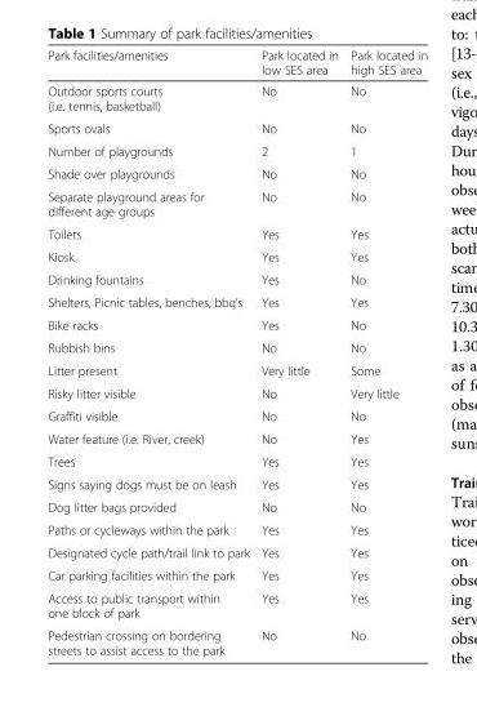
<table><thead><tr><td>Park facilities/amenities</td><td>Park located in low SES area</td><td>Park located in high SES area</td></tr></thead><tbody><tr><td>Outdoor sports courts (i.e. tennis, basketball)</td><td>No</td><td>No</td></tr><tr><td>Sports ovals</td><td>No</td><td>No</td></tr><tr><td>Number of playgrounds</td><td>2</td><td>1</td></tr><tr><td>Shade over playgrounds</td><td>No</td><td>No</td></tr><tr><td>Separate playground areas for different age groups</td><td>No</td><td>No</td></tr><tr><td>Toilets</td><td>Yes</td><td>Yes</td></tr><tr><td>Kiosk</td><td>Yes</td><td>Yes</td></tr><tr><td>Drinking fountains</td><td>Yes</td><td>No</td></tr><tr><td>Shelters, Picnic tables, benches, bbq’s</td><td>Yes</td><td>Yes</td></tr><tr><td>Bike racks</td><td>Yes</td><td>No</td></tr><tr><td>Rubbish bins</td><td>No</td><td>No</td></tr><tr><td>Litter present</td><td>Very little</td><td>Some</td></tr><tr><td>Risky litter visible</td><td>No</td><td>Very little</td></tr><tr><td>Graffiti visible</td><td>No</td><td>No</td></tr><tr><td>Water feature (i.e. River, creek)</td><td>No</td><td>Yes</td></tr><tr><td>Trees</td><td>Yes</td><td>Yes</td></tr><tr><td>Signs saying dogs must be on leash</td><td>Yes</td><td>Yes</td></tr><tr><td>Dog litter bags provided</td><td>No</td><td>No</td></tr><tr><td>Paths or cycleways within the park</td><td>Yes</td><td>Yes</td></tr><tr><td>Designated cycle path/trail link to park</td><td>Yes</td><td>Yes</td></tr><tr><td>Car parking facilities within the park</td><td>Yes</td><td>Yes</td></tr><tr><td>Access to public transport within one block of park</td><td>Yes</td><td>Yes</td></tr><tr><td>Pedestrian crossing on bordering streets to assist access to the park</td><td>No</td><td>No</td></tr></tbody></table>